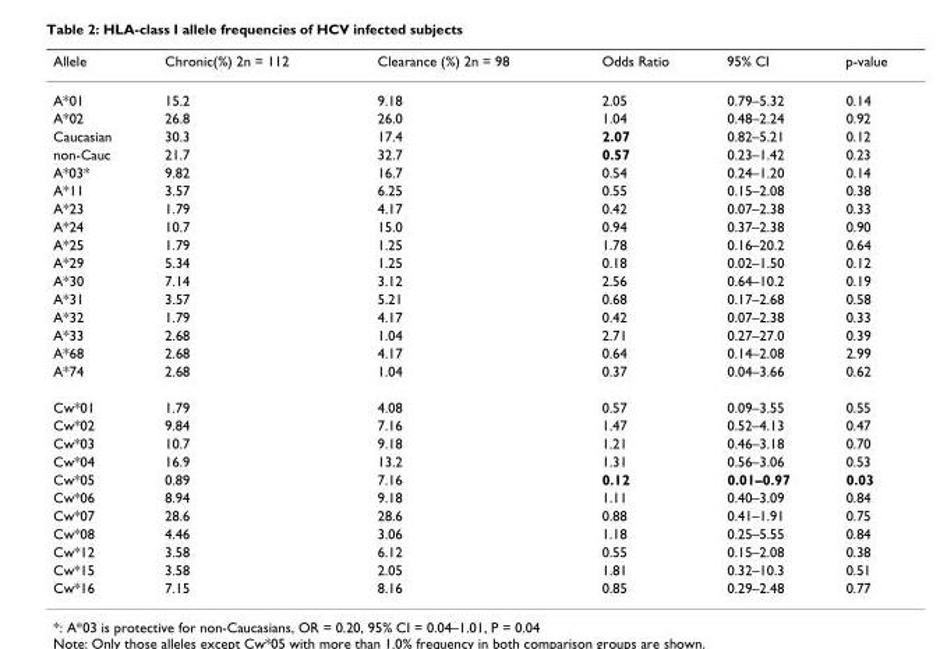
<table><thead><tr><td>Allele</td><td>Chronic(%) 2n = 112</td><td>Clearance (%) 2n = 98</td><td>Odds Ratio</td><td>95% CI</td><td>p-value</td></tr></thead><tbody><tr><td>A*01</td><td>15.2</td><td>9.18</td><td>2.05</td><td>0.79–5.32</td><td>0.14</td></tr><tr><td>A*02</td><td>26.8</td><td>26.0</td><td>1.04</td><td>0.48–2.24</td><td>0.92</td></tr><tr><td>Caucasian</td><td>30.3</td><td>17.4</td><td>2.07</td><td>0.82–5.21</td><td>0.12</td></tr><tr><td>non-Cauc</td><td>21.7</td><td>32.7</td><td>0.57</td><td>0.23–1.42</td><td>0.23</td></tr><tr><td>A*03*</td><td>9.82</td><td>16.7</td><td>0.54</td><td>0.24–1.20</td><td>0.14</td></tr><tr><td>A*11</td><td>3.57</td><td>6.25</td><td>0.55</td><td>0.15–2.08</td><td>0.38</td></tr><tr><td>A*23</td><td>1.79</td><td>4.17</td><td>0.42</td><td>0.07–2.38</td><td>0.33</td></tr><tr><td>A*24</td><td>10.7</td><td>15.0</td><td>0.94</td><td>0.37–2.38</td><td>0.90</td></tr><tr><td>A*25</td><td>1.79</td><td>1.25</td><td>1.78</td><td>0.16–20.2</td><td>0.64</td></tr><tr><td>A*29</td><td>5.34</td><td>1.25</td><td>0.18</td><td>0.02–1.50</td><td>0.12</td></tr><tr><td>A*30</td><td>7.14</td><td>3.12</td><td>2.56</td><td>0.64–10.2</td><td>0.19</td></tr><tr><td>A*31</td><td>3.57</td><td>5.21</td><td>0.68</td><td>0.17–2.68</td><td>0.58</td></tr><tr><td>A*32</td><td>1.79</td><td>4.17</td><td>0.42</td><td>0.07–2.38</td><td>0.33</td></tr><tr><td>A*33</td><td>2.68</td><td>1.04</td><td>2.71</td><td>0.27–27.0</td><td>0.39</td></tr><tr><td>A*68</td><td>2.68</td><td>4.17</td><td>0.64</td><td>0.14–2.08</td><td>2.99</td></tr><tr><td>A*74</td><td>2.68</td><td>1.04</td><td>0.37</td><td>0.04–3.66</td><td>0.62</td></tr><tr><td>Cw*01</td><td>1.79</td><td>4.08</td><td>0.57</td><td>0.09–3.55</td><td>0.55</td></tr><tr><td>Cw*02</td><td>9.84</td><td>7.16</td><td>1.47</td><td>0.52–4.13</td><td>0.47</td></tr><tr><td>Cw*03</td><td>10.7</td><td>9.18</td><td>1.21</td><td>0.46–3.18</td><td>0.70</td></tr><tr><td>Cw*04</td><td>16.9</td><td>13.2</td><td>1.31</td><td>0.56–3.06</td><td>0.53</td></tr><tr><td>Cw*05</td><td>0.89</td><td>7.16</td><td>0.12</td><td>0.01–0.97</td><td>0.03</td></tr><tr><td>Cw*06</td><td>8.94</td><td>9.18</td><td>1.11</td><td>0.40–3.09</td><td>0.84</td></tr><tr><td>Cw*07</td><td>28.6</td><td>28.6</td><td>0.88</td><td>0.41–1.91</td><td>0.75</td></tr><tr><td>Cw*08</td><td>4.46</td><td>3.06</td><td>1.18</td><td>0.25–5.55</td><td>0.84</td></tr><tr><td>Cw*12</td><td>3.58</td><td>6.12</td><td>0.55</td><td>0.15–2.08</td><td>0.38</td></tr><tr><td>Cw*15</td><td>3.58</td><td>2.05</td><td>1.81</td><td>0.32–10.3</td><td>0.51</td></tr><tr><td>Cw*16</td><td>7.15</td><td>8.16</td><td>0.85</td><td>0.29–2.48</td><td>0.77</td></tr></tbody></table>